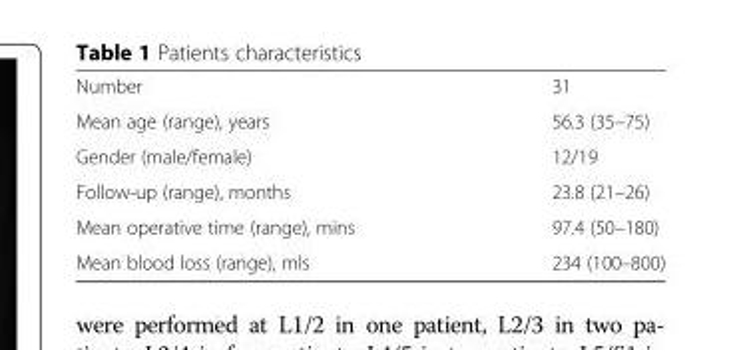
<table><tbody><tr><td>Number</td><td>31</td></tr><tr><td>Mean age (range), years</td><td>56.3 (35–75)</td></tr><tr><td>Gender (male/female)</td><td>12/19</td></tr><tr><td>Follow-up (range), months</td><td>23.8 (21–26)</td></tr><tr><td>Mean operative time (range), mins</td><td>97.4 (50–180)</td></tr><tr><td>Mean blood loss (range), mls</td><td>234 (100–800)</td></tr></tbody></table>